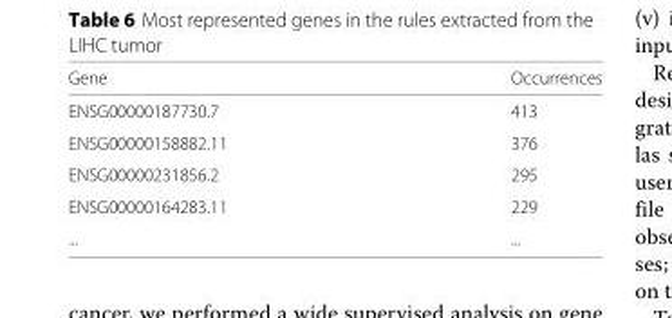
<table><thead><tr><td>Gene</td><td>Occurrences</td></tr></thead><tbody><tr><td>ENSG00000187730.7</td><td>413</td></tr><tr><td>ENSG00000158882.11</td><td>376</td></tr><tr><td>ENSG00000231856.2</td><td>295</td></tr><tr><td>ENSG00000164283.11</td><td>229</td></tr><tr><td>...</td><td>...</td></tr></tbody></table>